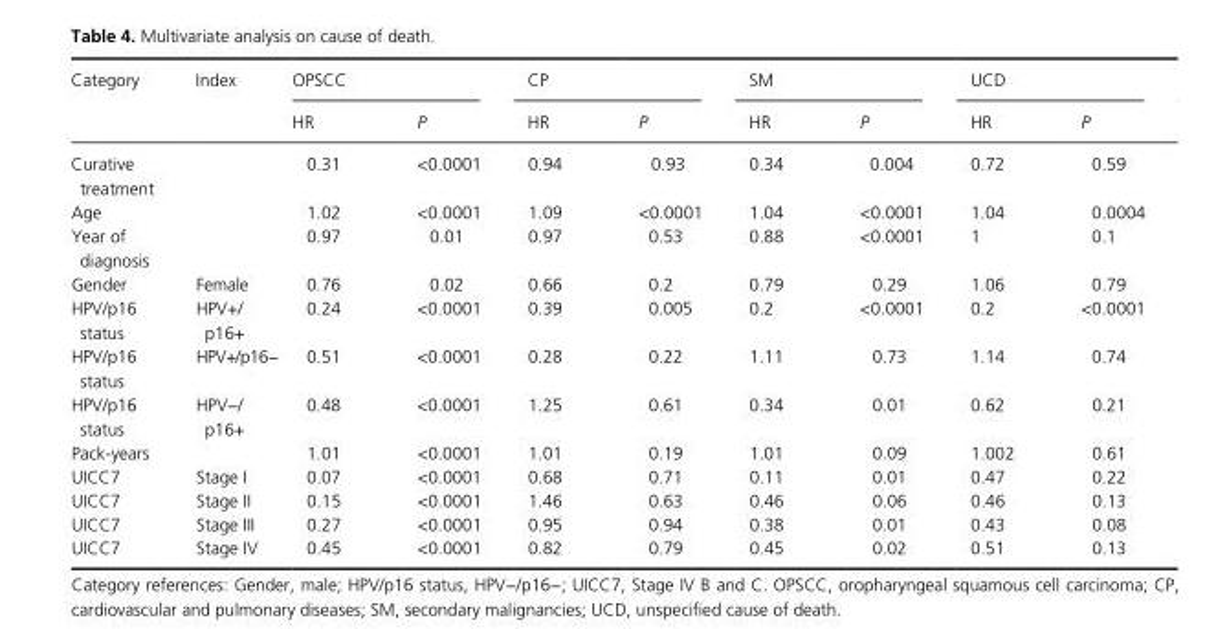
<table><thead><tr><td rowspan="2">Category</td><td rowspan="2">Index</td><td colspan="2">OPSCC</td><td colspan="2">CP</td><td colspan="2">SM</td><td colspan="2">UCD</td></tr><tr><td>HR</td><td>P</td><td>HR</td><td>P</td><td>HR</td><td>P</td><td>HR</td><td>P</td></tr></thead><tbody><tr><td>Curative treatment</td><td></td><td>0.31</td><td>&lt;0.0001</td><td>0.94</td><td>0.93</td><td>0.34</td><td>0.004</td><td>0.72</td><td>0.59</td></tr><tr><td>Age</td><td></td><td>1.02</td><td>&lt;0.0001</td><td>1.09</td><td>&lt;0.0001</td><td>1.04</td><td>&lt;0.0001</td><td>1.04</td><td>0.0004</td></tr><tr><td>Year of diagnosis</td><td></td><td>0.97</td><td>0.01</td><td>0.97</td><td>0.53</td><td>0.88</td><td>&lt;0.0001</td><td>1</td><td>0.1</td></tr><tr><td>Gender</td><td>Female</td><td>0.76</td><td>0.02</td><td>0.66</td><td>0.2</td><td>0.79</td><td>0.29</td><td>1.06</td><td>0.79</td></tr><tr><td>HPV/p16 status</td><td>HPV+/ p16+</td><td>0.24</td><td>&lt;0.0001</td><td>0.39</td><td>0.005</td><td>0.2</td><td>&lt;0.0001</td><td>0.2</td><td>&lt;0.0001</td></tr><tr><td>HPV/p16 status</td><td>HPV+/p16−</td><td>0.51</td><td>&lt;0.0001</td><td>0.28</td><td>0.22</td><td>1.11</td><td>0.73</td><td>1.14</td><td>0.74</td></tr><tr><td>HPV/p16 status</td><td>HPV−/ p16+</td><td>0.48</td><td>&lt;0.0001</td><td>1.25</td><td>0.61</td><td>0.34</td><td>0.01</td><td>0.62</td><td>0.21</td></tr><tr><td>Pack- years</td><td></td><td>1.01</td><td>&lt;0.0001</td><td>1.01</td><td>0.19</td><td>1.01</td><td>0.09</td><td>1.002</td><td>0.61</td></tr><tr><td>UICC7</td><td>Stage I</td><td>0.07</td><td>&lt;0.0001</td><td>0.68</td><td>0.71</td><td>0.11</td><td>0.01</td><td>0.47</td><td>0.22</td></tr><tr><td>UICC7</td><td>Stage II</td><td>0.15</td><td>&lt;0.0001</td><td>1.46</td><td>0.63</td><td>0.46</td><td>0.06</td><td>0.46</td><td>0.13</td></tr><tr><td>UICC7</td><td>Stage III</td><td>0.27</td><td>&lt;0.0001</td><td>0.95</td><td>0.94</td><td>0.38</td><td>0.01</td><td>0.43</td><td>0.08</td></tr><tr><td>UICC7</td><td>Stage IV</td><td>0.45</td><td>&lt;0.0001</td><td>0.82</td><td>0.79</td><td>0.45</td><td>0.02</td><td>0.51</td><td>0.13</td></tr></tbody></table>